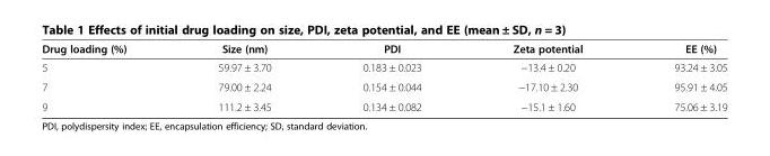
<table><thead><tr><td>Drug loading (%)</td><td>Size (nm)</td><td>PDI</td><td>Zeta potential</td><td>EE (%)</td></tr></thead><tbody><tr><td>5</td><td>59.97 ± 3.70</td><td>0.183 ± 0.023</td><td>−13.4 ± 0.20</td><td>93.24 ± 3.05</td></tr><tr><td>7</td><td>79.00 ± 2.24</td><td>0.154 ± 0.044</td><td>−17.10 ± 2.30</td><td>95.91 ± 4.05</td></tr><tr><td>9</td><td>111.2 ± 3.45</td><td>0.134 ± 0.082</td><td>−15.1 ± 1.60</td><td>75.06 ± 3.19</td></tr></tbody></table>